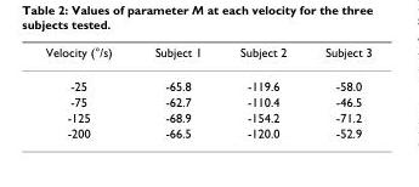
<table><thead><tr><td>Velocity (°/s)</td><td>Subject 1</td><td>Subject 2</td><td>Subject 3</td></tr></thead><tbody><tr><td>-25</td><td>-65.8</td><td>-119.6</td><td>-58.0</td></tr><tr><td>-75</td><td>-62.7</td><td>-110.4</td><td>-46.5</td></tr><tr><td>-125</td><td>-68.9</td><td>-154.2</td><td>-71.2</td></tr><tr><td>-200</td><td>-66.5</td><td>-120.0</td><td>-52.9</td></tr></tbody></table>